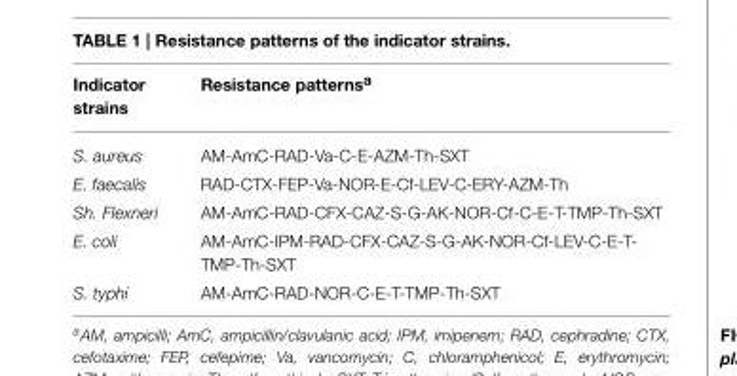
<table><thead><tr><td>Indicator strains</td><td>Resistance patterns<sup>a</sup></td></tr></thead><tbody><tr><td>S. aureus</td><td>AM-AmC-RAD-Va-C-E-AZM-Th-SXT</td></tr><tr><td>E. faecalis</td><td>RAD-CTX-FEP-Va-NOR-E-Cf-LEV-C-ERY-AZM-Th</td></tr><tr><td>Sh. Flexneri</td><td>AM-AmC-RAD-CFX-CAZ-S-G-AK-NOR-Cf-C-E-T-TMP-Th-SXT</td></tr><tr><td>E. coli</td><td>AM-AmC-IPM-RAD-CFX-CAZ-S-G-AK-NOR-Cf-LEV-C-E-T- TMP-Th-SXT</td></tr><tr><td>S. typhi</td><td>AM-AmC-RAD-NOR-C-E-T-TMP-Th-SXT</td></tr></tbody></table>